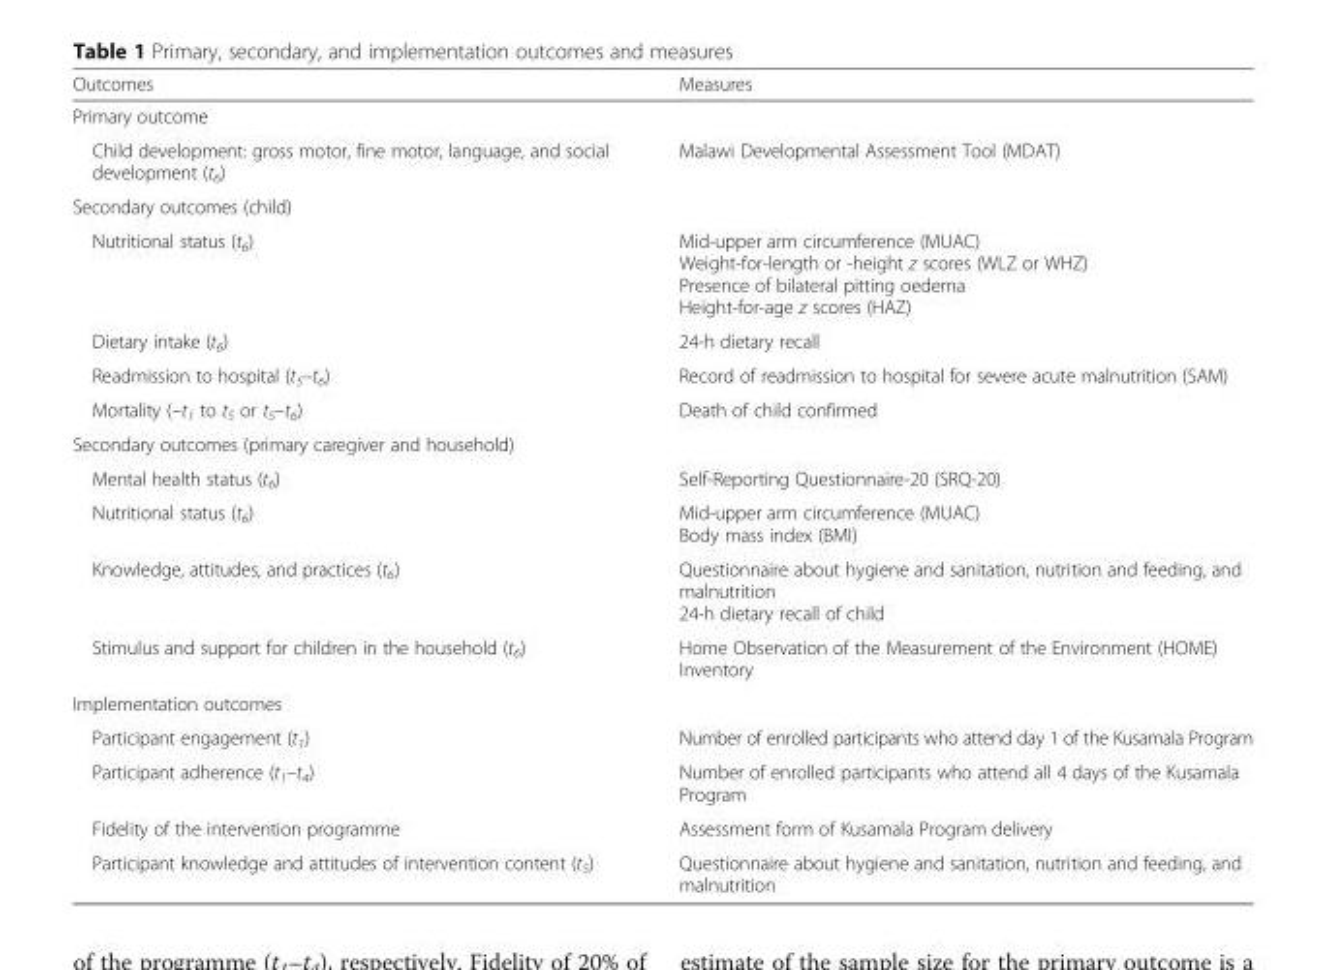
<table><thead><tr><td>Outcomes</td><td>Measures</td></tr></thead><tbody><tr><td colspan="2">Primary outcome</td></tr><tr><td>Child development: gross motor, fine motor, language, and social development (t<sub>6</sub>)</td><td>Malawi Developmental Assessment Tool (MDAT)</td></tr><tr><td colspan="2">Secondary outcomes (child)</td></tr><tr><td>Nutritional status (t<sub>6</sub>)</td><td>Mid-upper arm circumference (MUAC) Weight-for-length or -height z scores (WLZ or WHZ) Presence of bilateral pitting oedema Height-for-age z scores (HAZ)</td></tr><tr><td>Dietary intake (t<sub>6</sub>)</td><td>24-h dietary recall</td></tr><tr><td>Readmission to hospital (t<sub>5</sub>–t<sub>6</sub>)</td><td>Record of readmission to hospital for severe acute malnutrition (SAM)</td></tr><tr><td>Mortality (–t<sub>1</sub> to t<sub>5</sub> or t<sub>5</sub>–t<sub>6</sub>)</td><td>Death of child confirmed</td></tr><tr><td colspan="2">Secondary outcomes (primary caregiver and household)</td></tr><tr><td>Mental health status (t<sub>6</sub>)</td><td>Self-Reporting Questionnaire-20 (SRQ-20)</td></tr><tr><td>Nutritional status (t<sub>6</sub>)</td><td>Mid-upper arm circumference (MUAC) Body mass index (BMI)</td></tr><tr><td>Knowledge, attitudes, and practices (t<sub>6</sub>)</td><td>Questionnaire about hygiene and sanitation, nutrition and feeding, and malnutrition 24-h dietary recall of child</td></tr><tr><td>Stimulus and support for children in the household (t<sub>6</sub>)</td><td>Home Observation of the Measurement of the Environment (HOME) Inventory</td></tr><tr><td colspan="2">Implementation outcomes</td></tr><tr><td>Participant engagement (t<sub>1</sub>)</td><td>Number of enrolled participants who attend day 1 of the Kusamala Program</td></tr><tr><td>Participant adherence (t<sub>1</sub>–t<sub>4</sub>)</td><td>Number of enrolled participants who attend all 4 days of the Kusamala Program</td></tr><tr><td>Fidelity of the intervention programme</td><td>Assessment form of Kusamala Program delivery</td></tr><tr><td>Participant knowledge and attitudes of intervention content (t<sub>5</sub>)</td><td>Questionnaire about hygiene and sanitation, nutrition and feeding, and malnutrition</td></tr></tbody></table>